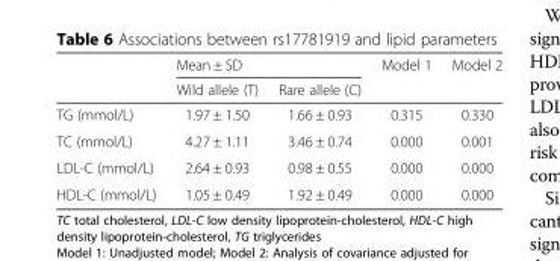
<table><thead><tr><td rowspan="2"></td><td colspan="2">Mean ± SD</td><td rowspan="2">Model 1</td><td rowspan="2">Model 2</td></tr><tr><td>Wild allele (T)</td><td>Rare allele (C)</td></tr></thead><tbody><tr><td>TG (mmol/L)</td><td>1.97 ± 1.50</td><td>1.66 ± 0.93</td><td>0.315</td><td>0.330</td></tr><tr><td>TC (mmol/L)</td><td>4.27 ± 1.11</td><td>3.46 ± 0.74</td><td>0.000</td><td>0.001</td></tr><tr><td>LDL-C (mmol/L)</td><td>2.64 ± 0.93</td><td>0.98 ± 0.55</td><td>0.000</td><td>0.000</td></tr><tr><td>HDL-C (mmol/L)</td><td>1.05 ± 0.49</td><td>1.92 ± 0.49</td><td>0.000</td><td>0.000</td></tr></tbody></table>